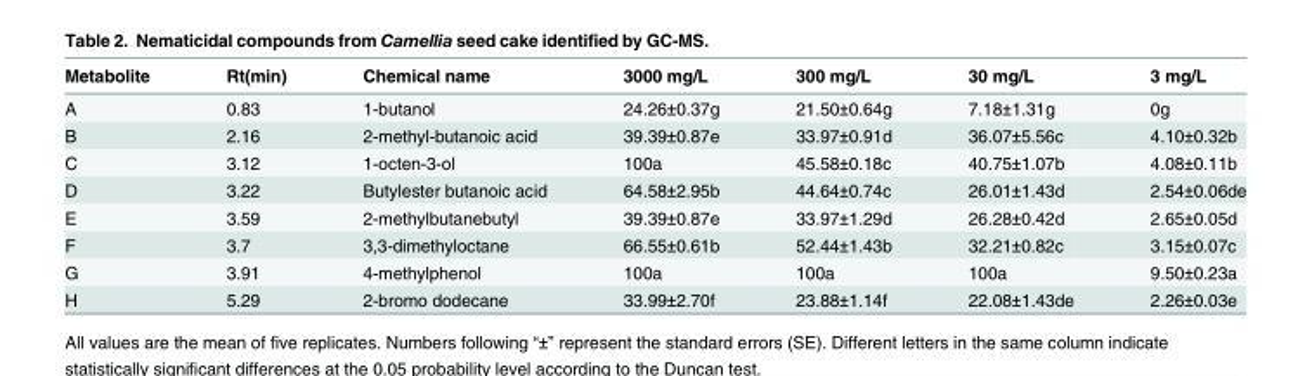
<table><thead><tr><td>Metabolite</td><td>Rt(min)</td><td>Chemical name</td><td>3000 mg/L</td><td>300 mg/L</td><td>30 mg/L</td><td>3 mg/L</td></tr></thead><tbody><tr><td>A</td><td>0.83</td><td>1-butanol</td><td>24.26±0.37g</td><td>21.50±0.64g</td><td>7.18±1.31g</td><td>0g</td></tr><tr><td>B</td><td>2.16</td><td>2-methyl-butanoic acid</td><td>39.39±0.87e</td><td>33.97±0.91d</td><td>36.07±5.56c</td><td>4.10±0.32b</td></tr><tr><td>C</td><td>3.12</td><td>1-octen-3-ol</td><td>100a</td><td>45.58±0.18c</td><td>40.75±1.07b</td><td>4.08±0.11b</td></tr><tr><td>D</td><td>3.22</td><td>Butylester butanoic acid</td><td>64.58±2.95b</td><td>44.64±0.74c</td><td>26.01±1.43d</td><td>2.54±0.06de</td></tr><tr><td>E</td><td>3.59</td><td>2-methylbutanebutyl</td><td>39.39±0.87e</td><td>33.97±1.29d</td><td>26.28±0.42d</td><td>2.65±0.05d</td></tr><tr><td>F</td><td>3.7</td><td>3,3-dimethyloctane</td><td>66.55±0.61b</td><td>52.44±1.43b</td><td>32.21±0.82c</td><td>3.15±0.07c</td></tr><tr><td>G</td><td>3.91</td><td>4-methylphenol</td><td>100a</td><td>100a</td><td>100a</td><td>9.50±0.23a</td></tr><tr><td>H</td><td>5.29</td><td>2-bromo dodecane</td><td>33.99±2.70f</td><td>23.88±1.14f</td><td>22.08±1.43de</td><td>2.26±0.03e</td></tr></tbody></table>